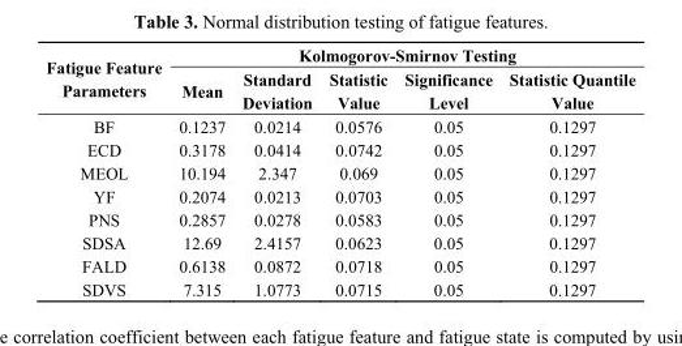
<table><thead><tr><td rowspan="2">Fatigue Feature Parameters</td><td colspan="5">Kolmogorov-Smirnov Testing</td></tr><tr><td>Mean</td><td>Standard Deviation</td><td>Statistic Value</td><td>Significance Level</td><td>Statistic Quantile Value</td></tr></thead><tbody><tr><td>BF</td><td>0.1237</td><td>0.0214</td><td>0.0576</td><td>0.05</td><td>0.1297</td></tr><tr><td>ECD</td><td>0.3178</td><td>0.0414</td><td>0.0742</td><td>0.05</td><td>0.1297</td></tr><tr><td>MEOL</td><td>10.194</td><td>2.347</td><td>0.069</td><td>0.05</td><td>0.1297</td></tr><tr><td>YF</td><td>0.2074</td><td>0.0213</td><td>0.0703</td><td>0.05</td><td>0.1297</td></tr><tr><td>PNS</td><td>0.2857</td><td>0.0278</td><td>0.0583</td><td>0.05</td><td>0.1297</td></tr><tr><td>SDSA</td><td>12.69</td><td>2.4157</td><td>0.0623</td><td>0.05</td><td>0.1297</td></tr><tr><td>FALD</td><td>0.6138</td><td>0.0872</td><td>0.0718</td><td>0.05</td><td>0.1297</td></tr><tr><td>SDVS</td><td>7.315</td><td>1.0773</td><td>0.0715</td><td>0.05</td><td>0.1297</td></tr></tbody></table>